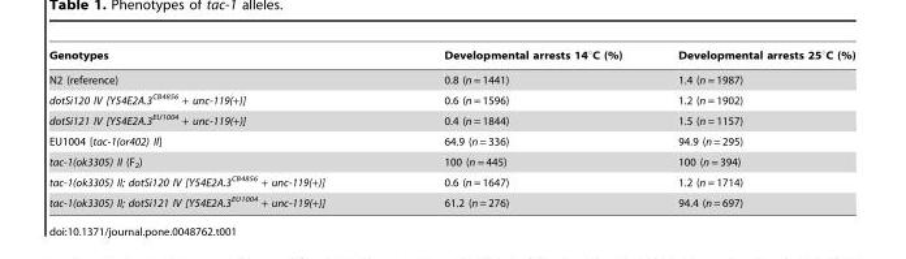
<table><thead><tr><td>Genotypes</td><td>Developmental arrests 14°C (%)</td><td>Developmental arrests 25°C (%)</td></tr></thead><tbody><tr><td>N2 (reference)</td><td>0.8 (n = 1441)</td><td>1.4 (n = 1987)</td></tr><tr><td>dotSi120 IV [Y54E2A.3<sup>CB4856</sup> + unc-119(+)]</td><td>0.6 (n = 1596)</td><td>1.2 (n = 1902)</td></tr><tr><td>dotSi121 IV [Y54E2A.3<sup>EU1004</sup> + unc-119(+)]</td><td>0.4 (n = 1844)</td><td>1.5 (n = 1157)</td></tr><tr><td>EU1004 [tac-1(or402) II]</td><td>64.9 (n = 336)</td><td>94.9 (n = 295)</td></tr><tr><td>tac-1(ok3305) II (F<sub>2</sub>)</td><td>100 (n = 445)</td><td>100 (n = 394)</td></tr><tr><td>tac-1(ok3305) II; dotSi120 IV [Y54E2A.3<sup>CB4856</sup> + unc-119(+)]</td><td>0.6 (n = 1647)</td><td>1.2 (n = 1714)</td></tr><tr><td>tac-1(ok3305) II; dotSi121 IV [Y54E2A.3<sup>EU1004</sup> + unc-119(+)]</td><td>61.2 (n = 276)</td><td>94.4 (n = 697)</td></tr></tbody></table>